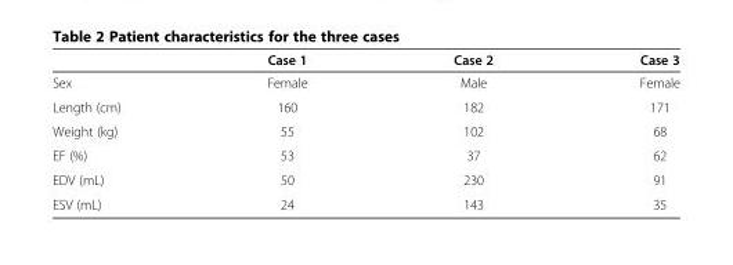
<table><thead><tr><td></td><td>Case 1</td><td>Case 2</td><td>Case 3</td></tr></thead><tbody><tr><td>Sex</td><td>Female</td><td>Male</td><td>Female</td></tr><tr><td>Length (cm)</td><td>160</td><td>182</td><td>171</td></tr><tr><td>Weight (kg)</td><td>55</td><td>102</td><td>68</td></tr><tr><td>EF (%)</td><td>53</td><td>37</td><td>62</td></tr><tr><td>EDV (mL)</td><td>50</td><td>230</td><td>91</td></tr><tr><td>ESV (mL)</td><td>24</td><td>143</td><td>35</td></tr></tbody></table>